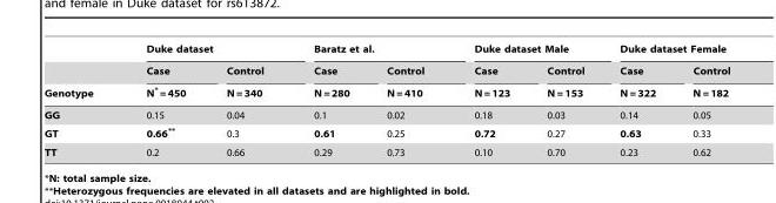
<table><thead><tr><td rowspan="3">Genotype</td><td colspan="2">Duke dataset</td><td colspan="2">Baratz et al.</td><td colspan="2">Duke dataset Male</td><td colspan="2">Duke dataset Female</td></tr><tr><td rowspan="2">Case N* = 450</td><td rowspan="2">Control N = 340</td><td rowspan="2">Case N = 280</td><td rowspan="2">Control N = 410</td><td rowspan="2">Case N = 123</td><td rowspan="2">Control N = 153</td><td rowspan="2">Case N = 322</td><td rowspan="2">Control N = 182</td></tr><tr></tr></thead><tbody><tr><td>GG</td><td>0.15</td><td>0.04</td><td>0.1</td><td>0.02</td><td>0.18</td><td>0.03</td><td>0.14</td><td>0.05</td></tr><tr><td>GT</td><td>0.66**</td><td>0.3</td><td>0.61</td><td>0.25</td><td>0.72</td><td>0.27</td><td>0.63</td><td>0.33</td></tr><tr><td>TT</td><td>0.2</td><td>0.66</td><td>0.29</td><td>0.73</td><td>0.10</td><td>0.70</td><td>0.23</td><td>0.62</td></tr></tbody></table>